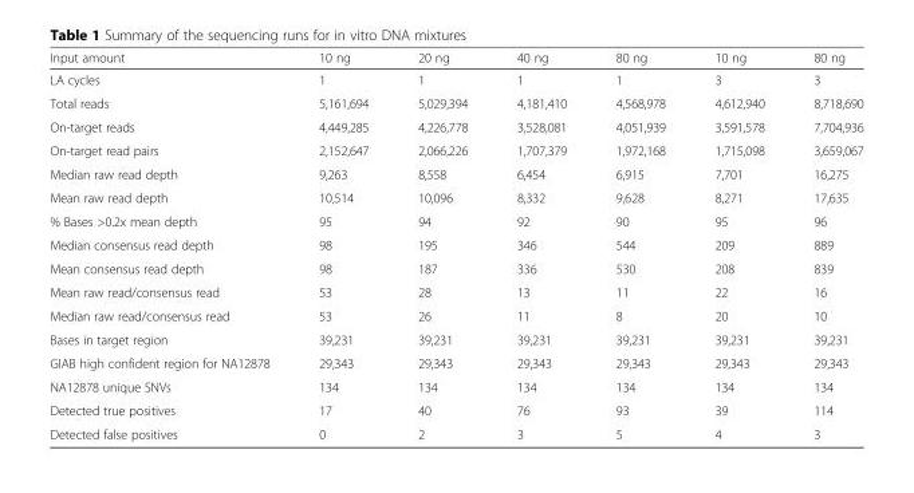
<table><thead><tr><td>Input amount</td><td>10 ng</td><td>20 ng</td><td>40 ng</td><td>80 ng</td><td>10 ng</td><td>80 ng</td></tr></thead><tbody><tr><td>LA cycles</td><td>1</td><td>1</td><td>1</td><td>1</td><td>3</td><td>3</td></tr><tr><td>Total reads</td><td>5,161,694</td><td>5,029,394</td><td>4,181,410</td><td>4,568,978</td><td>4,612,940</td><td>8,718,690</td></tr><tr><td>On-target reads</td><td>4,449,285</td><td>4,226,778</td><td>3,528,081</td><td>4,051,939</td><td>3,591,578</td><td>7,704,936</td></tr><tr><td>On-target read pairs</td><td>2,152,647</td><td>2,066,226</td><td>1,707,379</td><td>1,972,168</td><td>1,715,098</td><td>3,659,067</td></tr><tr><td>Median raw read depth</td><td>9,263</td><td>8,558</td><td>6,454</td><td>6,915</td><td>7,701</td><td>16,275</td></tr><tr><td>Mean raw read depth</td><td>10,514</td><td>10,096</td><td>8,332</td><td>9,628</td><td>8,271</td><td>17,635</td></tr><tr><td>% Bases &gt;0.2x mean depth</td><td>95</td><td>94</td><td>92</td><td>90</td><td>95</td><td>96</td></tr><tr><td>Median consensus read depth</td><td>98</td><td>195</td><td>346</td><td>544</td><td>209</td><td>889</td></tr><tr><td>Mean consensus read depth</td><td>98</td><td>187</td><td>336</td><td>530</td><td>208</td><td>839</td></tr><tr><td>Mean raw read/consensus read</td><td>53</td><td>28</td><td>13</td><td>11</td><td>22</td><td>16</td></tr><tr><td>Median raw read/consensus read</td><td>53</td><td>26</td><td>11</td><td>8</td><td>20</td><td>10</td></tr><tr><td>Bases in target region</td><td>39,231</td><td>39,231</td><td>39,231</td><td>39,231</td><td>39,231</td><td>39,231</td></tr><tr><td>GIAB high confident region for NA12878</td><td>29,343</td><td>29,343</td><td>29,343</td><td>29,343</td><td>29,343</td><td>29,343</td></tr><tr><td>NA12878 unique SNVs</td><td>134</td><td>134</td><td>134</td><td>134</td><td>134</td><td>134</td></tr><tr><td>Detected true positives</td><td>17</td><td>40</td><td>76</td><td>93</td><td>39</td><td>114</td></tr><tr><td>Detected false positives</td><td>0</td><td>2</td><td>3</td><td>5</td><td>4</td><td>3</td></tr></tbody></table>